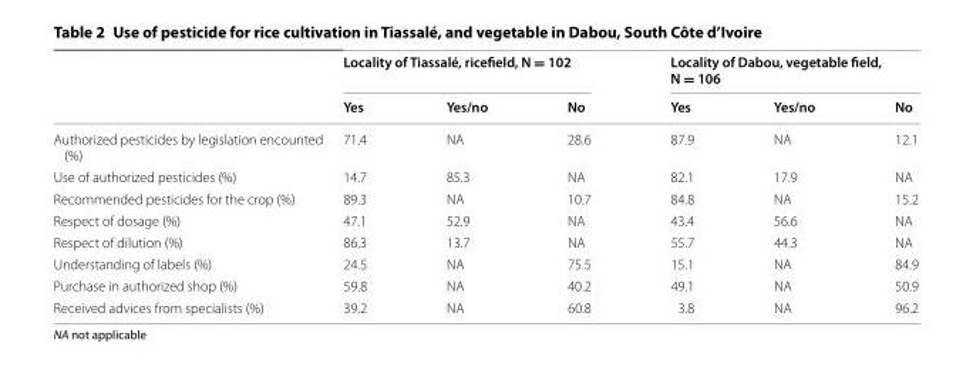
<table><thead><tr><td rowspan="2"></td><td colspan="3">Locality of Tiassalé, ricefield, N = 102</td><td colspan="3">Locality of Dabou, vegetable field, N = 106</td></tr><tr><td>Yes</td><td>Yes/no</td><td>No</td><td>Yes</td><td>Yes/no</td><td>No</td></tr></thead><tbody><tr><td>Authorized pesticides by legislation encounted (%)</td><td>71.4</td><td>NA</td><td>28.6</td><td>87.9</td><td>NA</td><td>12.1</td></tr><tr><td>Use of authorized pesticides (%)</td><td>14.7</td><td>85.3</td><td>NA</td><td>82.1</td><td>17.9</td><td>NA</td></tr><tr><td>Recommended pesticides for the crop (%)</td><td>89.3</td><td>NA</td><td>10.7</td><td>84.8</td><td>NA</td><td>15.2</td></tr><tr><td>Respect of dosage (%)</td><td>47.1</td><td>52.9</td><td>NA</td><td>43.4</td><td>56.6</td><td>NA</td></tr><tr><td>Respect of dilution (%)</td><td>86.3</td><td>13.7</td><td>NA</td><td>55.7</td><td>44.3</td><td>NA</td></tr><tr><td>Understanding of labels (%)</td><td>24.5</td><td>NA</td><td>75.5</td><td>15.1</td><td>NA</td><td>84.9</td></tr><tr><td>Purchase in authorized shop (%)</td><td>59.8</td><td>NA</td><td>40.2</td><td>49.1</td><td>NA</td><td>50.9</td></tr><tr><td>Received advices from specialists (%)</td><td>39.2</td><td>NA</td><td>60.8</td><td>3.8</td><td>NA</td><td>96.2</td></tr></tbody></table>